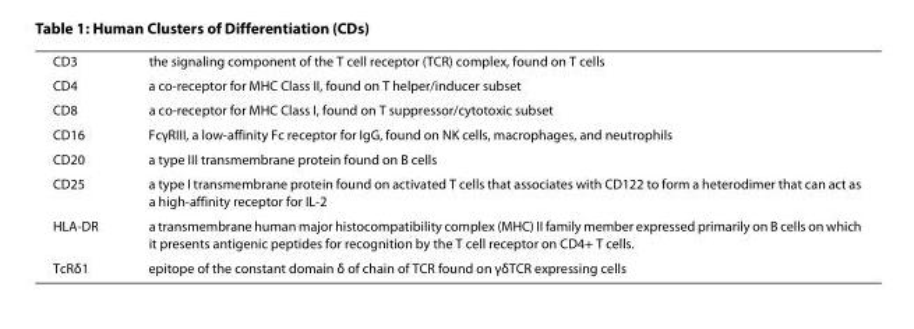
<table><tbody><tr><td>CD3</td><td>the signaling component of the T cell receptor (TCR) complex, found on T cells</td></tr><tr><td>CD4</td><td>a co-receptor for MHC Class II, found on T helper/inducer subset</td></tr><tr><td>CD8</td><td>a co-receptor for MHC Class I, found on T suppressor/cytotoxic subset</td></tr><tr><td>CD16</td><td>FcγRIII, a low-affinity Fc receptor for IgG, found on NK cells, macrophages, and neutrophils</td></tr><tr><td>CD20</td><td>a type III transmembrane protein found on B cells</td></tr><tr><td>CD25</td><td>a type I transmembrane protein found on activated T cells that associates with CD122 to form a heterodimer that can act as a high-affinity receptor for IL-2</td></tr><tr><td>HLA-DR</td><td>a transmembrane human major histocompatibility complex (MHC) II family member expressed primarily on B cells on which it presents antigenic peptides for recognition by the T cell receptor on CD4+ T cells.</td></tr><tr><td>TcRδ1</td><td>epitope of the constant domain δ of chain of TCR found on γδTCR expressing cells</td></tr></tbody></table>